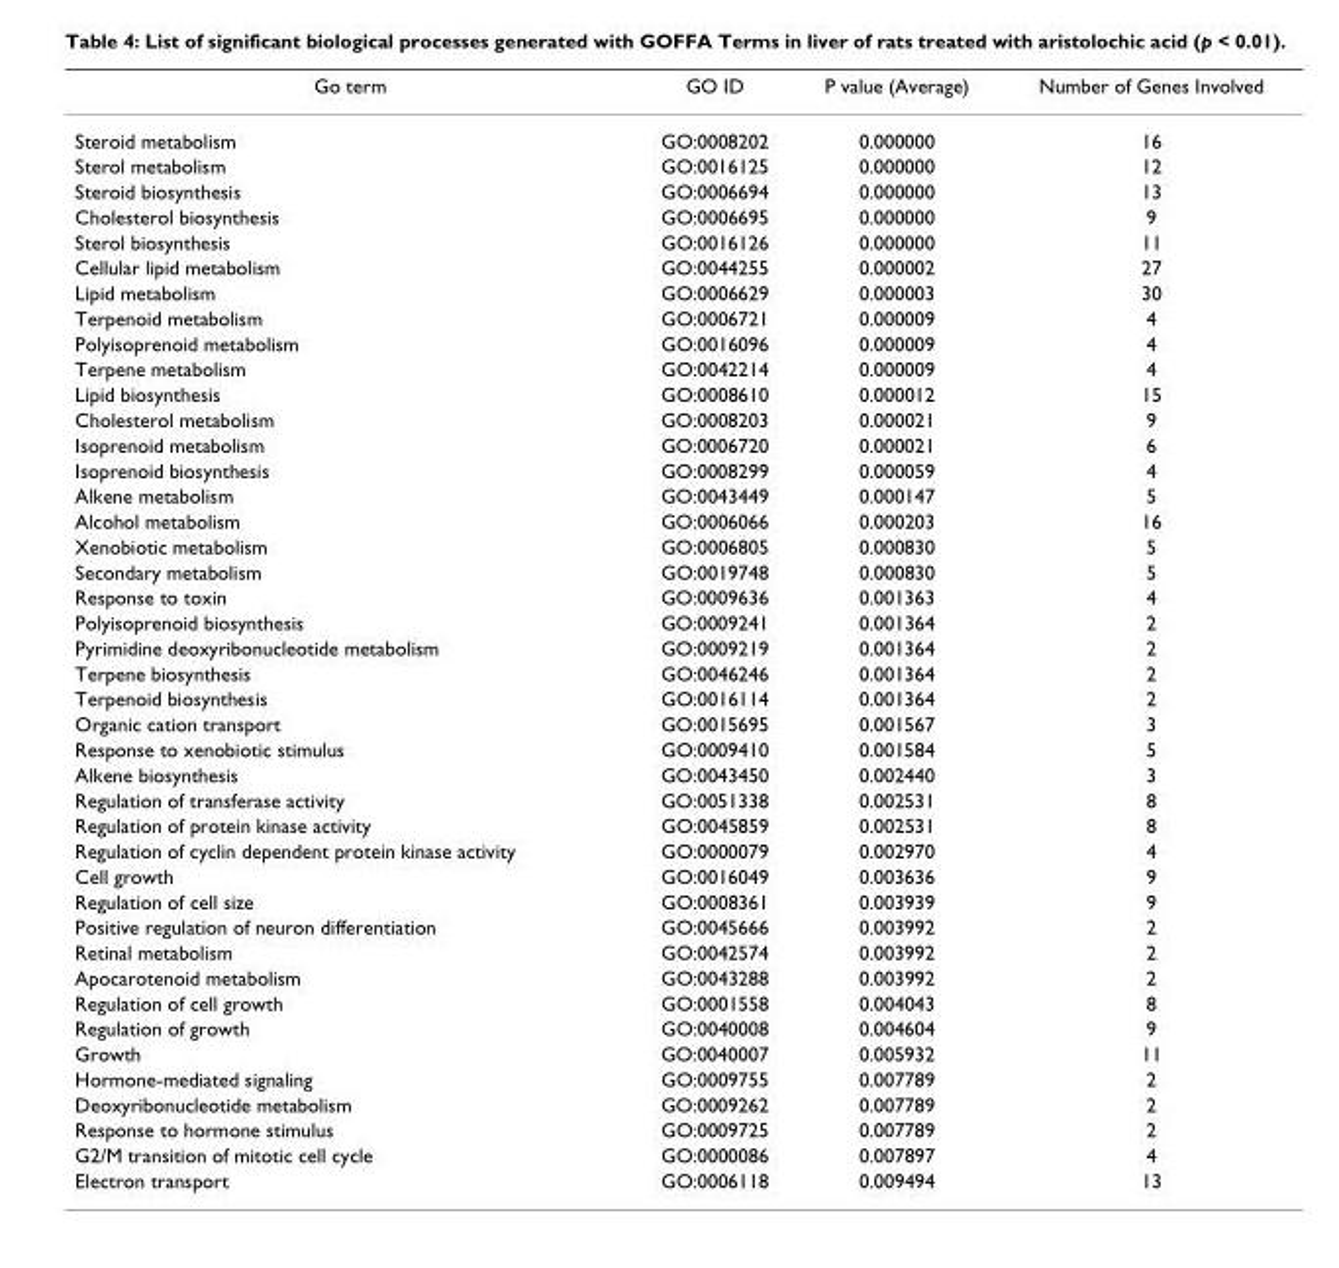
<table><thead><tr><td>Go term</td><td>GO ID</td><td>P value (Average)</td><td>Number of Genes Involved</td></tr></thead><tbody><tr><td>Steroid metabolism</td><td>GO:0008202</td><td>0.000000</td><td>16</td></tr><tr><td>Sterol metabolism</td><td>GO:0016125</td><td>0.000000</td><td>12</td></tr><tr><td>Steroid biosynthesis</td><td>GO:0006694</td><td>0.000000</td><td>13</td></tr><tr><td>Cholesterol biosynthesis</td><td>GO:0006695</td><td>0.000000</td><td>9</td></tr><tr><td>Sterol biosynthesis</td><td>GO:0016126</td><td>0.000000</td><td>11</td></tr><tr><td>Cellular lipid metabolism</td><td>GO:0044255</td><td>0.000002</td><td>27</td></tr><tr><td>Lipid metabolism</td><td>GO:0006629</td><td>0.000003</td><td>30</td></tr><tr><td>Terpenoid metabolism</td><td>GO:0006721</td><td>0.000009</td><td>4</td></tr><tr><td>Polyisoprenoid metabolism</td><td>GO:0016096</td><td>0.000009</td><td>4</td></tr><tr><td>Terpene metabolism</td><td>GO:0042214</td><td>0.000009</td><td>4</td></tr><tr><td>Lipid biosynthesis</td><td>GO:0008610</td><td>0.000012</td><td>15</td></tr><tr><td>Cholesterol metabolism</td><td>GO:0008203</td><td>0.000021</td><td>9</td></tr><tr><td>Isoprenoid metabolism</td><td>GO:0006720</td><td>0.000021</td><td>6</td></tr><tr><td>Isoprenoid biosynthesis</td><td>GO:0008299</td><td>0.000059</td><td>4</td></tr><tr><td>Alkene metabolism</td><td>GO:0043449</td><td>0.000147</td><td>5</td></tr><tr><td>Alcohol metabolism</td><td>GO:0006066</td><td>0.000203</td><td>16</td></tr><tr><td>Xenobiotic metabolism</td><td>GO:0006805</td><td>0.000830</td><td>5</td></tr><tr><td>Secondary metabolism</td><td>GO:0019748</td><td>0.000830</td><td>5</td></tr><tr><td>Response to toxin</td><td>GO:0009636</td><td>0.001363</td><td>4</td></tr><tr><td>Polyisoprenoid biosynthesis</td><td>GO:0009241</td><td>0.001364</td><td>2</td></tr><tr><td>Pyrimidine deoxyribonucleotide metabolism</td><td>GO:0009219</td><td>0.001364</td><td>2</td></tr><tr><td>Terpene biosynthesis</td><td>GO:0046246</td><td>0.001364</td><td>2</td></tr><tr><td>Terpenoid biosynthesis</td><td>GO:0016114</td><td>0.001364</td><td>2</td></tr><tr><td>Organic cation transport</td><td>GO:0015695</td><td>0.001567</td><td>3</td></tr><tr><td>Response to xenobiotic stimulus</td><td>GO:0009410</td><td>0.001584</td><td>5</td></tr><tr><td>Alkene biosynthesis</td><td>GO:0043450</td><td>0.002440</td><td>3</td></tr><tr><td>Regulation of transferase activity</td><td>GO:0051338</td><td>0.002531</td><td>8</td></tr><tr><td>Regulation of protein kinase activity</td><td>GO:0045859</td><td>0.002531</td><td>8</td></tr><tr><td>Regulation of cyclin dependent protein kinase activity</td><td>GO:0000079</td><td>0.002970</td><td>4</td></tr><tr><td>Cell growth</td><td>GO:0016049</td><td>0.003636</td><td>9</td></tr><tr><td>Regulation of cell size</td><td>GO:0008361</td><td>0.003939</td><td>9</td></tr><tr><td>Positive regulation of neuron differentiation</td><td>GO:0045666</td><td>0.003992</td><td>2</td></tr><tr><td>Retinal metabolism</td><td>GO:0042574</td><td>0.003992</td><td>2</td></tr><tr><td>Apocarotenoid metabolism</td><td>GO:0043288</td><td>0.003992</td><td>2</td></tr><tr><td>Regulation of cell growth</td><td>GO:0001558</td><td>0.004043</td><td>8</td></tr><tr><td>Regulation of growth</td><td>GO:0040008</td><td>0.004604</td><td>9</td></tr><tr><td>Growth</td><td>GO:0040007</td><td>0.005932</td><td>11</td></tr><tr><td>Hormone-mediated signaling</td><td>GO:0009755</td><td>0.007789</td><td>2</td></tr><tr><td>Deoxyribonucleotide metabolism</td><td>GO:0009262</td><td>0.007789</td><td>2</td></tr><tr><td>Response to hormone stimulus</td><td>GO:0009725</td><td>0.007789</td><td>2</td></tr><tr><td>G2/M transition of mitotic cell cycle</td><td>GO:0000086</td><td>0.007897</td><td>4</td></tr><tr><td>Electron transport</td><td>GO:0006118</td><td>0.009494</td><td>13</td></tr></tbody></table>